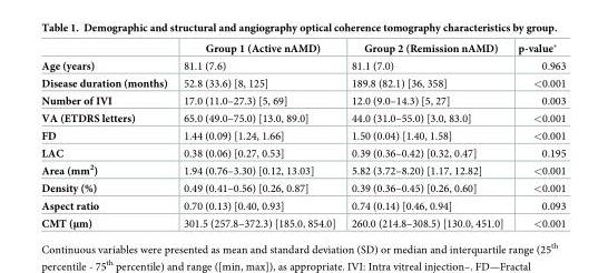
<table><thead><tr><td></td><td>Group 1 (Active nAMD)</td><td>Group 2 (Remission nAMD)</td><td>p-value*</td></tr></thead><tbody><tr><td>Age (years)</td><td>81.1 (7.6)</td><td>81.1 (7.0)</td><td>0.963</td></tr><tr><td>Disease duration (months)</td><td>52.8 (33.6) [8, 125]</td><td>189.8 (82.1) [36, 358]</td><td>&lt;0.001</td></tr><tr><td>Number of IVI</td><td>17.0 (11.0–27.3) [5, 69]</td><td>12.0 (9.0–14.3) [5, 27]</td><td>0.003</td></tr><tr><td>VA (ETDRS letters)</td><td>65.0 (49.0–75.0) [13.0, 89.0]</td><td>44.0 (31.0–55.0) [3.0, 83.0]</td><td>&lt;0.001</td></tr><tr><td>FD</td><td>1.44 (0.09) [1.24, 1.66]</td><td>1.50 (0.04) [1.40, 1.58]</td><td>&lt;0.001</td></tr><tr><td>LAC</td><td>0.38 (0.06) [0.27, 0.53]</td><td>0.39 (0.36–0.42) [0.32, 0.47]</td><td>0.195</td></tr><tr><td>Area (mm<sup>2</sup>)</td><td>1.94 (0.76–3.30) [0.12, 13.03]</td><td>5.82 (3.72–8.20) [1.17, 12.82]</td><td>&lt;0.001</td></tr><tr><td>Density (%)</td><td>0.49 (0.41–0.56) [0.26, 0.87]</td><td>0.39 (0.36–0.45) [0.26, 0.60]</td><td>&lt;0.001</td></tr><tr><td>Aspect ratio</td><td>0.70 (0.13) [0.40, 0.93]</td><td>0.74 (0.14) [0.46, 0.94]</td><td>0.093</td></tr><tr><td>CMT (μm)</td><td>301.5 (257.8–372.3) [185.0, 854.0]</td><td>260.0 (214.8–308.5) [130.0, 451.0]</td><td>&lt;0.001</td></tr></tbody></table>